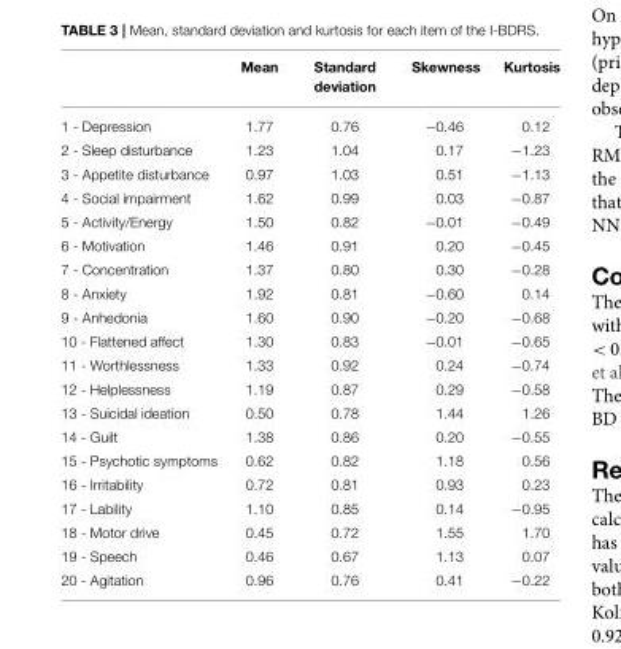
<table><thead><tr><td></td><td>Mean</td><td>Standard deviation</td><td>Skewness</td><td>Kurtosis</td></tr></thead><tbody><tr><td>1 - Depression</td><td>1.77</td><td>0.76</td><td>−0.46</td><td>0.12</td></tr><tr><td>2 - Sleep disturbance</td><td>1.23</td><td>1.04</td><td>0.17</td><td>−1.23</td></tr><tr><td>3 - Appetite disturbance</td><td>0.97</td><td>1.03</td><td>0.51</td><td>−1.13</td></tr><tr><td>4 - Social impairment</td><td>1.62</td><td>0.99</td><td>0.03</td><td>−0.87</td></tr><tr><td>5 - Activity/Energy</td><td>1.50</td><td>0.82</td><td>−0.01</td><td>−0.49</td></tr><tr><td>6 - Motivation</td><td>1.46</td><td>0.91</td><td>0.20</td><td>−0.45</td></tr><tr><td>7 - Concentration</td><td>1.37</td><td>0.80</td><td>0.30</td><td>−0.28</td></tr><tr><td>8 - Anxiety</td><td>1.92</td><td>0.81</td><td>−0.60</td><td>0.14</td></tr><tr><td>9 - Anhedonia</td><td>1.60</td><td>0.90</td><td>−0.20</td><td>−0.68</td></tr><tr><td>10 - Flattened affect</td><td>1.30</td><td>0.83</td><td>−0.01</td><td>−0.65</td></tr><tr><td>11 - Worthlessness</td><td>1.33</td><td>0.92</td><td>0.24</td><td>−0.74</td></tr><tr><td>12 - Helplessness</td><td>1.19</td><td>0.87</td><td>0.29</td><td>−0.58</td></tr><tr><td>13 - Suicidal ideation</td><td>0.50</td><td>0.78</td><td>1.44</td><td>1.26</td></tr><tr><td>14 - Guilt</td><td>1.38</td><td>0.86</td><td>0.20</td><td>−0.55</td></tr><tr><td>15 - Psychotic symptoms</td><td>0.62</td><td>0.82</td><td>1.18</td><td>0.56</td></tr><tr><td>16 - Irritability</td><td>0.72</td><td>0.81</td><td>0.93</td><td>0.23</td></tr><tr><td>17 - Lability</td><td>1.10</td><td>0.85</td><td>0.14</td><td>−0.95</td></tr><tr><td>18 - Motor drive</td><td>0.45</td><td>0.72</td><td>1.55</td><td>1.70</td></tr><tr><td>19 - Speech</td><td>0.46</td><td>0.67</td><td>1.13</td><td>0.07</td></tr><tr><td>20 - Agitation</td><td>0.96</td><td>0.76</td><td>0.41</td><td>−0.22</td></tr></tbody></table>